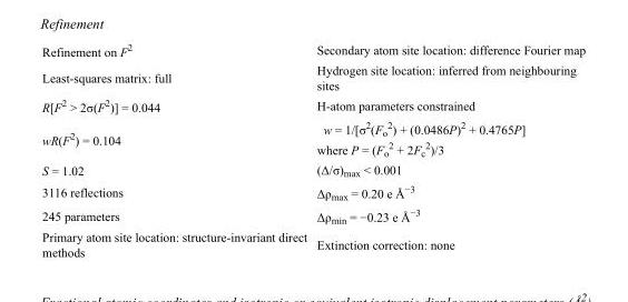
<table><tbody><tr><td>Refinement on F<sup>2</sup></td><td>Secondary atom site location: difference Fourier map</td></tr><tr><td>Least-squares matrix: full</td><td>Hydrogen site location: inferred from neighbouring sites</td></tr><tr><td>R[F<sup>2</sup> &gt; 2σ(F<sup>2</sup>)] = 0.044</td><td>H-atom parameters constrained</td></tr><tr><td>wR(F<sup>2</sup>) = 0.104</td><td>w = 1/[σ<sup>2</sup>(F<sub>o</sub> <sup>2</sup>) + (0.0486P)<sup>2</sup> + 0.4765P] where P = (F<sub>o</sub> <sup>2</sup> + 2F<sub>c</sub> <sup>2</sup>)/3</td></tr><tr><td>S = 1.02</td><td>(Δ/σ)<sub>max</sub> &lt; 0.001</td></tr><tr><td>3116 reflections</td><td>Δρ<sub>max</sub> = 0.20 e Å<sup>−3</sup></td></tr><tr><td>245 parameters</td><td>Δρ<sub>min</sub> = −0.23 e Å<sup>−3</sup></td></tr><tr><td>Primary atom site location: structure-invariant direct methods</td><td>Extinction correction: none</td></tr></tbody></table>